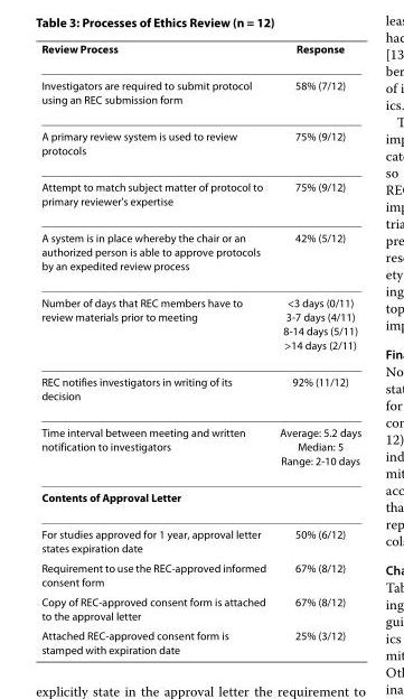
<table><thead><tr><td>Review Process</td><td>Response</td></tr></thead><tbody><tr><td>Investigators are required to submit protocol using an REC submission form</td><td>58% (7/12)</td></tr><tr><td>A primary review system is used to review protocols</td><td>75% (9/12)</td></tr><tr><td>Attempt to match subject matter of protocol to primary reviewer&#x27;s expertise</td><td>75% (9/12)</td></tr><tr><td>A system is in place whereby the chair or an authorized person is able to approve protocols by an expedited review process</td><td>42% (5/12)</td></tr><tr><td>Number of days that REC members have to review materials prior to meeting</td><td>&lt;3 days (0/11) 3-7 days (4/11) 8-14 days (5/11) &gt;14 days (2/11)</td></tr><tr><td>REC notifies investigators in writing of its decision</td><td>92% (11/12)</td></tr><tr><td>Time interval between meeting and written notification to investigators</td><td>Average: 5.2 days Median: 5 Range: 2-10 days</td></tr><tr><td colspan="2">Contents of Approval Letter</td></tr><tr><td>For studies approved for 1 year, approval letter states expiration date</td><td>50% (6/12)</td></tr><tr><td>Requirement to use the REC-approved informed consent form</td><td>67% (8/12)</td></tr><tr><td>Copy of REC-approved consent form is attached to the approval letter</td><td>67% (8/12)</td></tr><tr><td>Attached REC-approved consent form is stamped with expiration date</td><td>25% (3/12)</td></tr></tbody></table>